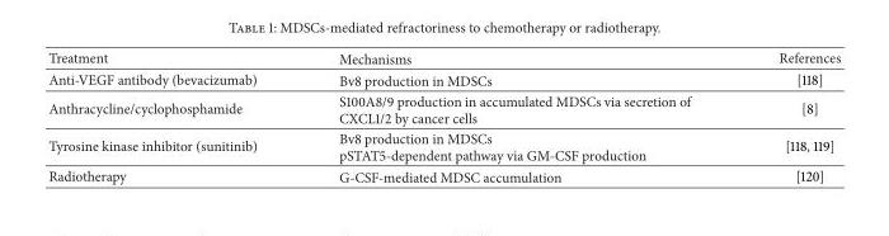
<table><thead><tr><td>Treatment</td><td>Mechanisms</td><td>References</td></tr></thead><tbody><tr><td>Anti-VEGF antibody (bevacizumab)</td><td>Bv8 production in MDSCs</td><td>[118]</td></tr><tr><td>Anthracycline/cyclophosphamide</td><td>S100A8/9 production in accumulated MDSCs via secretion of CXCL1/2 by cancer cells</td><td>[8]</td></tr><tr><td>Tyrosine kinase inhibitor (sunitinib)</td><td>Bv8 production in MDSCs pSTAT5-dependent pathway via GM-CSF production</td><td>[118, 119]</td></tr><tr><td>Radiotherapy</td><td>G-CSF-mediated MDSC accumulation</td><td>[120]</td></tr></tbody></table>